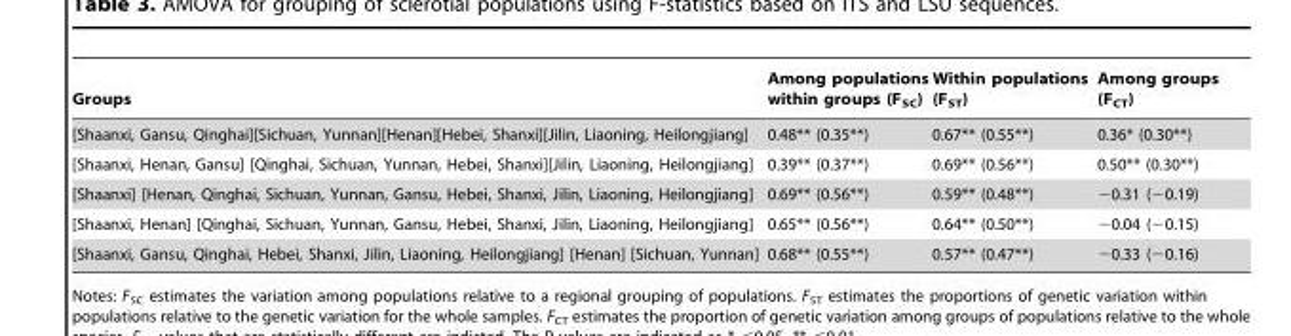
<table><thead><tr><td>Groups</td><td>Among populations within groups (F<sub>SC</sub>)</td><td>Within populations (F<sub>ST</sub>)</td><td>Among groups (F<sub>CT</sub>)</td></tr></thead><tbody><tr><td>[Shaanxi, Gansu, Qinghai][Sichuan, Yunnan][Henan][Hebei, Shanxi][Jilin, Liaoning, Heilongjiang]</td><td>0.48** (0.35**)</td><td>0.67** (0.55**)</td><td>0.36* (0.30**)</td></tr><tr><td>[Shaanxi, Henan, Gansu] [Qinghai, Sichuan, Yunnan, Hebei, Shanxi][Jilin, Liaoning, Heilongjiang]</td><td>0.39** (0.37**)</td><td>0.69** (0.56**)</td><td>0.50** (0.30**)</td></tr><tr><td>[Shaanxi] [Henan, Qinghai, Sichuan, Yunnan, Gansu, Hebei, Shanxi, Jilin, Liaoning, Heilongjiang]</td><td>0.69** (0.56**)</td><td>0.59** (0.48**)</td><td>−0.31 (−0.19)</td></tr><tr><td>[Shaanxi, Henan] [Qinghai, Sichuan, Yunnan, Gansu, Hebei, Shanxi, Jilin, Liaoning, Heilongjiang]</td><td>0.65** (0.56**)</td><td>0.64** (0.50**)</td><td>−0.04 (−0.15)</td></tr><tr><td>[Shaanxi, Gansu, Qinghai, Hebei, Shanxi, Jilin, Liaoning, Heilongjiang] [Henan] [Sichuan, Yunnan]</td><td>0.68** (0.55**)</td><td>0.57** (0.47**)</td><td>−0.33 (−0.16)</td></tr></tbody></table>